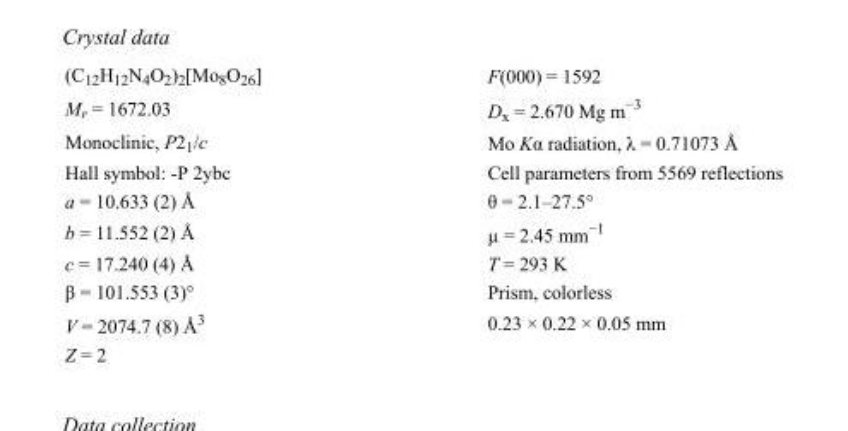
<table><tbody><tr><td>(C<sub>12</sub>H<sub>12</sub>N<sub>4</sub>O<sub>2</sub>)<sub>2</sub>[Mo<sub>8</sub>O<sub>26</sub>]</td><td>F(000) = 1592</td></tr><tr><td>M<sub>r</sub> = 1672.03</td><td>D<sub>x</sub> = 2.670 Mg m<sup>−3</sup></td></tr><tr><td>Monoclinic, P2<sub>1</sub>/c</td><td>Mo Kα radiation, λ = 0.71073 Å</td></tr><tr><td>Hall symbol: -P 2ybc</td><td>Cell parameters from 5569 reflections</td></tr><tr><td>a = 10.633 (2) Å</td><td>θ = 2.1–27.5°</td></tr><tr><td>b = 11.552 (2) Å</td><td>µ = 2.45 mm<sup>−1</sup></td></tr><tr><td>c = 17.240 (4) Å</td><td>T = 293 K</td></tr><tr><td>β = 101.553 (3)°</td><td>Prism, colorless</td></tr><tr><td>V = 2074.7 (8) Å<sup>3</sup></td><td>0.23 × 0.22 × 0.05 mm</td></tr><tr><td>Z = 2</td><td></td></tr></tbody></table>